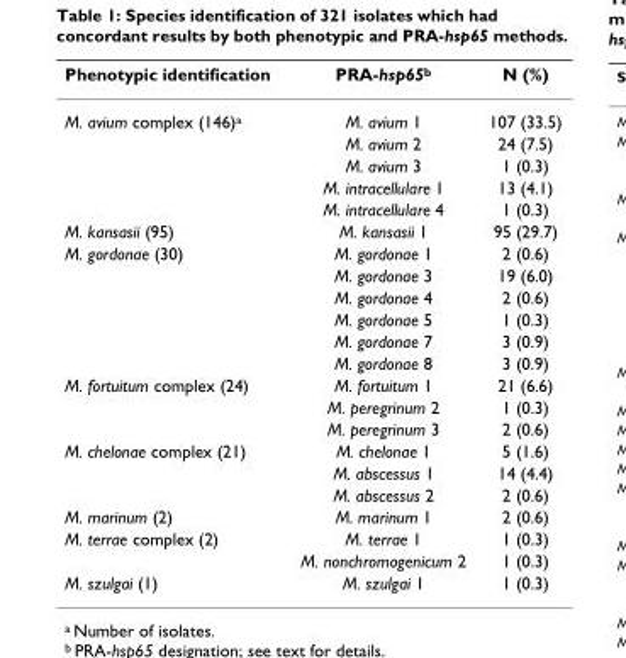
<table><thead><tr><td>Phenotypic identification</td><td>PRA-hsp65<sup>b</sup></td><td>N (%)</td></tr></thead><tbody><tr><td rowspan="5">M. avium complex (146)<sup>a</sup></td><td>M. avium 1</td><td>107 (33.5)</td></tr><tr><td>M. avium 2</td><td>24 (7.5)</td></tr><tr><td>M. avium 3</td><td>1 (0.3)</td></tr><tr><td>M. intracellulare 1</td><td>13 (4.1)</td></tr><tr><td>M. intracellulare 4</td><td>1 (0.3)</td></tr><tr><td>M. kansasii (95)</td><td>M. kansasii 1</td><td>95 (29.7)</td></tr><tr><td rowspan="6">M. gordonae (30)</td><td>M. gordonae 1</td><td>2 (0.6)</td></tr><tr><td>M. gordonae 3</td><td>19 (6.0)</td></tr><tr><td>M. gordonae 4</td><td>2 (0.6)</td></tr><tr><td>M. gordonae 5</td><td>1 (0.3)</td></tr><tr><td>M. gordonae 7</td><td>3 (0.9)</td></tr><tr><td>M. gordonae 8</td><td>3 (0.9)</td></tr><tr><td rowspan="3">M. fortuitum complex (24)</td><td>M. fortuitum 1</td><td>21 (6.6)</td></tr><tr><td>M. peregrinum 2</td><td>1 (0.3)</td></tr><tr><td>M. peregrinum 3</td><td>2 (0.6)</td></tr><tr><td rowspan="3">M. chelonae complex (21)</td><td>M. chelonae 1</td><td>5 (1.6)</td></tr><tr><td>M. abscessus 1</td><td>14 (4.4)</td></tr><tr><td>M. abscessus 2</td><td>2 (0.6)</td></tr><tr><td>M. marinum (2)</td><td>M. marinum 1</td><td>2 (0.6)</td></tr><tr><td rowspan="2">M. terrae complex (2)</td><td>M. terrae 1</td><td>1 (0.3)</td></tr><tr><td>M. nonchromogenicum 2</td><td>1 (0.3)</td></tr><tr><td>M. szulgai (1)</td><td>M. szulgai 1</td><td>1 (0.3)</td></tr></tbody></table>